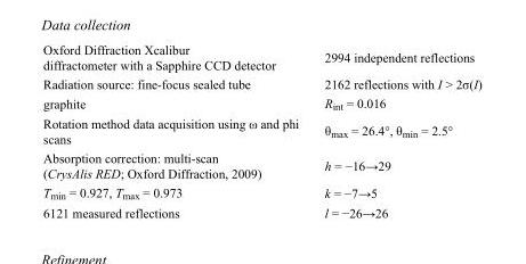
<table><tbody><tr><td>Oxford Diffraction Xcalibur diffractometer with a Sapphire CCD detector</td><td>2994 independent reflections</td></tr><tr><td>Radiation source: fine-focus sealed tube</td><td>2162 reflections with I &gt; 2σ(I)</td></tr><tr><td>graphite</td><td>R<sub>int</sub> = 0.016</td></tr><tr><td>Rotation method data acquisition using ω and phi scans</td><td>θ<sub>max</sub> = 26.4°, θ<sub>min</sub> = 2.5°</td></tr><tr><td>Absorption correction: multi-scan (CrysAlis RED; Oxford Diffraction, 2009)</td><td>h = −16→29</td></tr><tr><td>T<sub>min</sub> = 0.927, T<sub>max</sub> = 0.973</td><td>k = −7→5</td></tr><tr><td>6121 measured reflections</td><td>l = −26→26</td></tr></tbody></table>